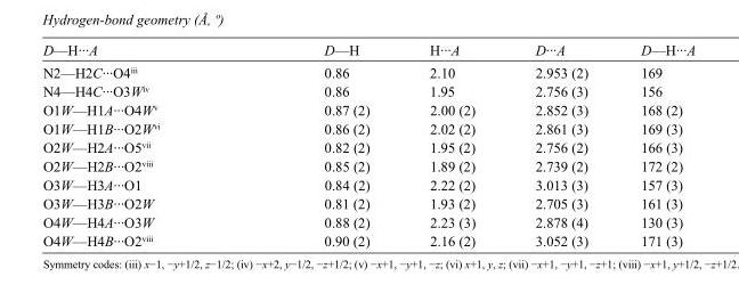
<table><tbody><tr><td>D—H···A</td><td>D—H</td><td>H···A</td><td>D···A</td><td>D—H···A</td></tr><tr><td>N2—H2C···O4<sup>iii</sup></td><td>0.86</td><td>2.10</td><td>2.953 (2)</td><td>169</td></tr><tr><td>N4—H4C···O3W<sup>iv</sup></td><td>0.86</td><td>1.95</td><td>2.756 (3)</td><td>156</td></tr><tr><td>O1W—H1A···O4W<sup>v</sup></td><td>0.87 (2)</td><td>2.00 (2)</td><td>2.852 (3)</td><td>168 (2)</td></tr><tr><td>O1W—H1B···O2W<sup>vi</sup></td><td>0.86 (2)</td><td>2.02 (2)</td><td>2.861 (3)</td><td>169 (3)</td></tr><tr><td>O2W—H2A···O5<sup>vii</sup></td><td>0.82 (2)</td><td>1.95 (2)</td><td>2.756 (2)</td><td>166 (3)</td></tr><tr><td>O2W—H2B···O2<sup>viii</sup></td><td>0.85 (2)</td><td>1.89 (2)</td><td>2.739 (2)</td><td>172 (2)</td></tr><tr><td>O3W—H3A···O1</td><td>0.84 (2)</td><td>2.22 (2)</td><td>3.013 (3)</td><td>157 (3)</td></tr><tr><td>O3W—H3B···O2W</td><td>0.81 (2)</td><td>1.93 (2)</td><td>2.705 (3)</td><td>161 (3)</td></tr><tr><td>O4W—H4A···O3W</td><td>0.88 (2)</td><td>2.23 (3)</td><td>2.878 (4)</td><td>130 (3)</td></tr><tr><td>O4W—H4B···O2<sup>viii</sup></td><td>0.90 (2)</td><td>2.16 (2)</td><td>3.052 (3)</td><td>171 (3)</td></tr></tbody></table>